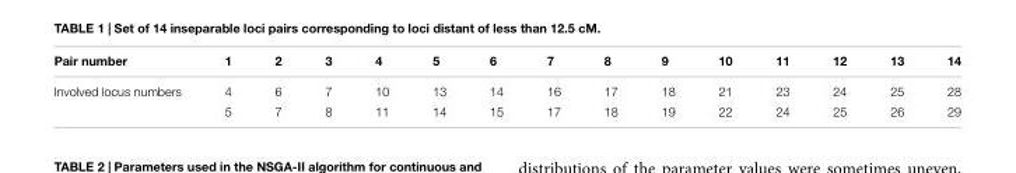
<table><thead><tr><td>Pair number</td><td>1</td><td>2</td><td>3</td><td>4</td><td>5</td><td>6</td><td>7</td><td>8</td><td>9</td><td>10</td><td>11</td><td>12</td><td>13</td><td>14</td></tr></thead><tbody><tr><td rowspan="2">Involved locus numbers</td><td>4</td><td>6</td><td>7</td><td>10</td><td>13</td><td>14</td><td>16</td><td>17</td><td>18</td><td>21</td><td>23</td><td>24</td><td>25</td><td>28</td></tr><tr><td>5</td><td>7</td><td>8</td><td>11</td><td>14</td><td>15</td><td>17</td><td>18</td><td>19</td><td>22</td><td>24</td><td>25</td><td>26</td><td>29</td></tr></tbody></table>